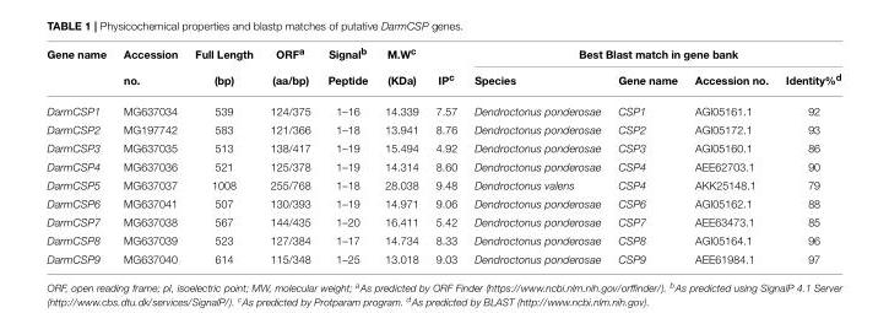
<table><thead><tr><td rowspan="2">Gene name</td><td rowspan="2">Accession no.</td><td rowspan="2">Full Length (bp)</td><td rowspan="2">ORF<sup>a</sup> (aa/bp)</td><td rowspan="2">Signal<sup>b</sup> Peptide</td><td rowspan="2">M.W<sup>c</sup> (KDa)</td><td rowspan="2">IP<sup>c</sup></td><td colspan="4">Best Blast match in gene bank</td></tr><tr><td>Species</td><td>Gene name</td><td>Accession no.</td><td>Identity%<sup>d</sup></td></tr></thead><tbody><tr><td>DarmCSP1</td><td>MG637034</td><td>539</td><td>124/375</td><td>1–16</td><td>14.339</td><td>7.57</td><td>Dendroctonus ponderosae</td><td>CSP1</td><td>AGI05161.1</td><td>92</td></tr><tr><td>DarmCSP2</td><td>MG197742</td><td>583</td><td>121/366</td><td>1–18</td><td>13.941</td><td>8.76</td><td>Dendroctonus ponderosae</td><td>CSP2</td><td>AGI05172.1</td><td>93</td></tr><tr><td>DarmCSP3</td><td>MG637035</td><td>513</td><td>138/417</td><td>1–19</td><td>15.494</td><td>4.92</td><td>Dendroctonus ponderosae</td><td>CSP3</td><td>AGI05160.1</td><td>86</td></tr><tr><td>DarmCSP4</td><td>MG637036</td><td>521</td><td>125/378</td><td>1–19</td><td>14.314</td><td>8.60</td><td>Dendroctonus ponderosae</td><td>CSP4</td><td>AEE62703.1</td><td>90</td></tr><tr><td>DarmCSP5</td><td>MG637037</td><td>1008</td><td>255/768</td><td>1–18</td><td>28.038</td><td>9.48</td><td>Dendroctonus valens</td><td>CSP4</td><td>AKK25148.1</td><td>79</td></tr><tr><td>DarmCSP6</td><td>MG637041</td><td>507</td><td>130/393</td><td>1–19</td><td>14.971</td><td>9.06</td><td>Dendroctonus ponderosae</td><td>CSP6</td><td>AGI05162.1</td><td>88</td></tr><tr><td>DarmCSP7</td><td>MG637038</td><td>567</td><td>144/435</td><td>1–20</td><td>16.411</td><td>5.42</td><td>Dendroctonus ponderosae</td><td>CSP7</td><td>AEE63473.1</td><td>85</td></tr><tr><td>DarmCSP8</td><td>MG637039</td><td>523</td><td>127/384</td><td>1–17</td><td>14.734</td><td>8.33</td><td>Dendroctonus ponderosae</td><td>CSP8</td><td>AGI05164.1</td><td>96</td></tr><tr><td>DarmCSP9</td><td>MG637040</td><td>614</td><td>115/348</td><td>1–25</td><td>13.018</td><td>9.03</td><td>Dendroctonus ponderosae</td><td>CSP9</td><td>AEE61984.1</td><td>97</td></tr></tbody></table>